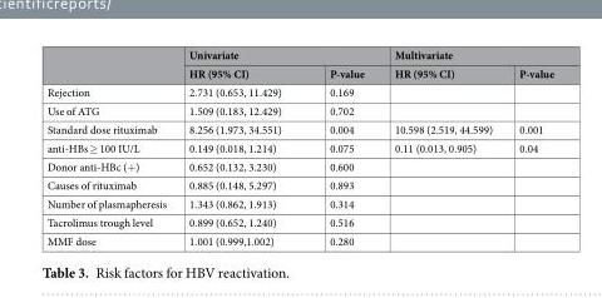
<table><thead><tr><td rowspan="2"></td><td colspan="2">Univariate</td><td colspan="2">Multivariate</td></tr><tr><td>HR (95% CI)</td><td>P-value</td><td>HR (95% CI)</td><td>P-value</td></tr></thead><tbody><tr><td>Rejection</td><td>2.731 (0.653, 11.429)</td><td>0.169</td><td></td><td></td></tr><tr><td>Use of ATG</td><td>1.509 (0.183, 12.429)</td><td>0.702</td><td></td><td></td></tr><tr><td>Standard dose rituximab</td><td>8.256 (1.973, 34.551)</td><td>0.004</td><td>10.598 (2.519, 44.599)</td><td>0.001</td></tr><tr><td>anti-HBs ≥ 100 IU/L</td><td>0.149 (0.018, 1.214)</td><td>0.075</td><td>0.11 (0.013, 0.905)</td><td>0.04</td></tr><tr><td>Donor anti-HBc (+)</td><td>0.652 (0.132, 3.230)</td><td>0.600</td><td></td><td></td></tr><tr><td>Causes of rituximab</td><td>0.885 (0.148, 5.297)</td><td>0.893</td><td></td><td></td></tr><tr><td>Number of plasmapheresis</td><td>1.343 (0.862, 1.913)</td><td>0.314</td><td></td><td></td></tr><tr><td>Tacrolimus trough level</td><td>0.899 (0.652, 1.240)</td><td>0.516</td><td></td><td></td></tr><tr><td>MMF dose</td><td>1.001 (0.999,1.002)</td><td>0.280</td><td></td><td></td></tr></tbody></table>